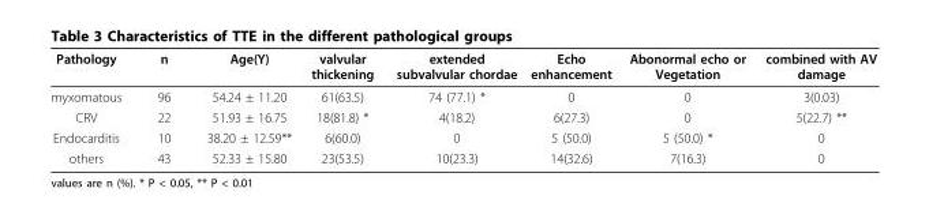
<table><thead><tr><td>Pathology</td><td>n</td><td>Age(Y)</td><td>valvular thickening</td><td>extended subvalvular chordae</td><td>Echo enhancement</td><td>Abonormal echo or Vegetation</td><td>combined with AV damage</td></tr></thead><tbody><tr><td>myxomatous</td><td>96</td><td>54.24 ± 11.20</td><td>61(63.5)</td><td>74 (77.1) *</td><td>0</td><td>0</td><td>3(0.03)</td></tr><tr><td>CRV</td><td>22</td><td>51.93 ± 16.75</td><td>18(81.8) *</td><td>4(18.2)</td><td>6(27.3)</td><td>0</td><td>5(22.7) **</td></tr><tr><td>Endocarditis</td><td>10</td><td>38.20 ± 12.59**</td><td>6(60.0)</td><td>0</td><td>5 (50.0)</td><td>5 (50.0) *</td><td>0</td></tr><tr><td>others</td><td>43</td><td>52.33 ± 15.80</td><td>23(53.5)</td><td>10(23.3)</td><td>14(32.6)</td><td>7(16.3)</td><td>0</td></tr></tbody></table>